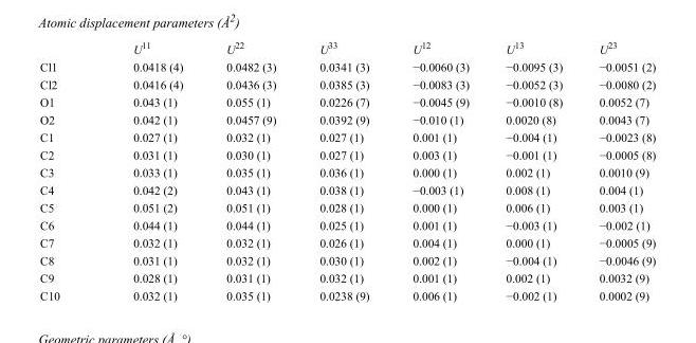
<table><thead><tr><td></td><td>U<sup>11</sup></td><td>U<sup>22</sup></td><td>U<sup>33</sup></td><td>U<sup>12</sup></td><td>U<sup>13</sup></td><td>U<sup>23</sup></td></tr></thead><tbody><tr><td>Cl1</td><td>0.0418 (4)</td><td>0.0482 (3)</td><td>0.0341 (3)</td><td>−0.0060 (3)</td><td>−0.0095 (3)</td><td>−0.0051 (2)</td></tr><tr><td>Cl2</td><td>0.0416 (4)</td><td>0.0436 (3)</td><td>0.0385 (3)</td><td>−0.0083 (3)</td><td>−0.0052 (3)</td><td>−0.0080 (2)</td></tr><tr><td>O1</td><td>0.043 (1)</td><td>0.055 (1)</td><td>0.0226 (7)</td><td>−0.0045 (9)</td><td>−0.0010 (8)</td><td>0.0052 (7)</td></tr><tr><td>O2</td><td>0.042 (1)</td><td>0.0457 (9)</td><td>0.0392 (9)</td><td>−0.010 (1)</td><td>0.0020 (8)</td><td>0.0043 (7)</td></tr><tr><td>C1</td><td>0.027 (1)</td><td>0.032 (1)</td><td>0.027 (1)</td><td>0.001 (1)</td><td>−0.004 (1)</td><td>−0.0023 (8)</td></tr><tr><td>C2</td><td>0.031 (1)</td><td>0.030 (1)</td><td>0.027 (1)</td><td>0.003 (1)</td><td>−0.001 (1)</td><td>−0.0005 (8)</td></tr><tr><td>C3</td><td>0.033 (1)</td><td>0.035 (1)</td><td>0.036 (1)</td><td>0.000 (1)</td><td>0.002 (1)</td><td>0.0010 (9)</td></tr><tr><td>C4</td><td>0.042 (2)</td><td>0.043 (1)</td><td>0.038 (1)</td><td>−0.003 (1)</td><td>0.008 (1)</td><td>0.004 (1)</td></tr><tr><td>C5</td><td>0.051 (2)</td><td>0.051 (1)</td><td>0.028 (1)</td><td>0.000 (1)</td><td>0.006 (1)</td><td>0.003 (1)</td></tr><tr><td>C6</td><td>0.044 (1)</td><td>0.044 (1)</td><td>0.025 (1)</td><td>0.001 (1)</td><td>−0.003 (1)</td><td>−0.002 (1)</td></tr><tr><td>C7</td><td>0.032 (1)</td><td>0.032 (1)</td><td>0.026 (1)</td><td>0.004 (1)</td><td>0.000 (1)</td><td>−0.0005 (9)</td></tr><tr><td>C8</td><td>0.031 (1)</td><td>0.032 (1)</td><td>0.030 (1)</td><td>0.002 (1)</td><td>−0.004 (1)</td><td>−0.0046 (9)</td></tr><tr><td>C9</td><td>0.028 (1)</td><td>0.031 (1)</td><td>0.032 (1)</td><td>0.001 (1)</td><td>0.002 (1)</td><td>0.0032 (9)</td></tr><tr><td>C10</td><td>0.032 (1)</td><td>0.035 (1)</td><td>0.0238 (9)</td><td>0.006 (1)</td><td>−0.002 (1)</td><td>0.0002 (9)</td></tr></tbody></table>